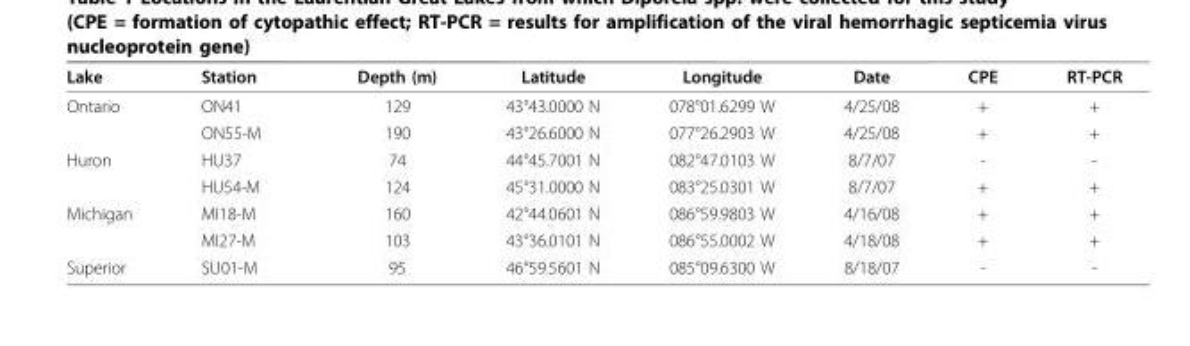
<table><thead><tr><td>Lake</td><td>Station</td><td>Depth (m)</td><td>Latitude</td><td>Longitude</td><td>Date</td><td>CPE</td><td>RT-PCR</td></tr></thead><tbody><tr><td rowspan="2">Ontario</td><td>ON41</td><td>129</td><td>43°43.0000 N</td><td>078°01.6299 W</td><td>4/25/08</td><td>+</td><td>+</td></tr><tr><td>ON55-M</td><td>190</td><td>43°26.6000 N</td><td>077°26.2903 W</td><td>4/25/08</td><td>+</td><td>+</td></tr><tr><td rowspan="2">Huron</td><td>HU37</td><td>74</td><td>44°45.7001 N</td><td>082°47.0103 W</td><td>8/7/07</td><td>-</td><td>-</td></tr><tr><td>HU54-M</td><td>124</td><td>45°31.0000 N</td><td>083°25.0301 W</td><td>8/7/07</td><td>+</td><td>+</td></tr><tr><td rowspan="2">Michigan</td><td>MI18-M</td><td>160</td><td>42°44.0601 N</td><td>086°59.9803 W</td><td>4/16/08</td><td>+</td><td>+</td></tr><tr><td>MI27-M</td><td>103</td><td>43°36.0101 N</td><td>086°55.0002 W</td><td>4/18/08</td><td>+</td><td>+</td></tr><tr><td>Superior</td><td>SU01-M</td><td>95</td><td>46°59.5601 N</td><td>085°09.6300 W</td><td>8/18/07</td><td>-</td><td>-</td></tr></tbody></table>